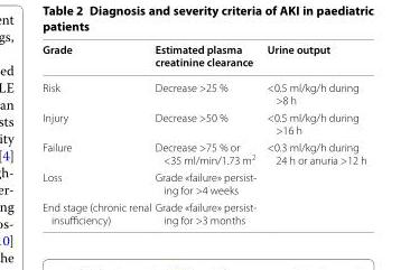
<table><thead><tr><td>Grade</td><td>Estimated plasma creatinine clearance</td><td>Urine output</td></tr></thead><tbody><tr><td>Risk</td><td>Decrease &gt;25 %</td><td>&lt;0.5 ml/kg/h during &gt;8 h</td></tr><tr><td>Injury</td><td>Decrease &gt;50 %</td><td>&lt;0.5 ml/kg/h during &gt;16 h</td></tr><tr><td>Failure</td><td>Decrease &gt;75 % or &lt;35 ml/min/1.73 m<sup>2</sup></td><td>&lt;0.3 ml/kg/h during 24 h or anuria &gt;12 h</td></tr><tr><td>Loss</td><td>Grade «failure» persist‑ ing for &gt;4 weeks</td><td></td></tr><tr><td>End stage (chronic renal insufficiency)</td><td>Grade «failure» persist‑ ing for &gt;3 months</td><td></td></tr></tbody></table>